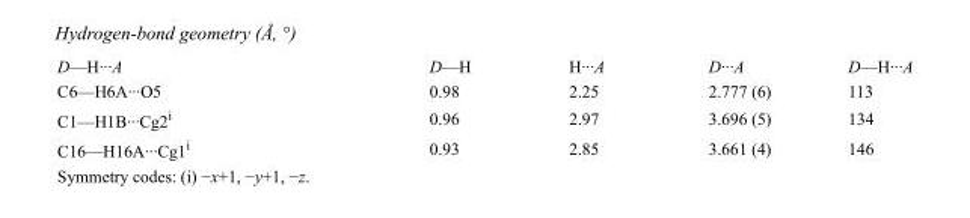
<table><tbody><tr><td>D—H···A</td><td>D—H</td><td>H···A</td><td>D···A</td><td>D—H···A</td></tr><tr><td>C6—H6A···O5</td><td>0.98</td><td>2.25</td><td>2.777 (6)</td><td>113</td></tr><tr><td>C1—H1B···Cg2<sup>i</sup></td><td>0.96</td><td>2.97</td><td>3.696 (5)</td><td>134</td></tr><tr><td>C16—H16A···Cg1<sup>i</sup></td><td>0.93</td><td>2.85</td><td>3.661 (4)</td><td>146</td></tr></tbody></table>